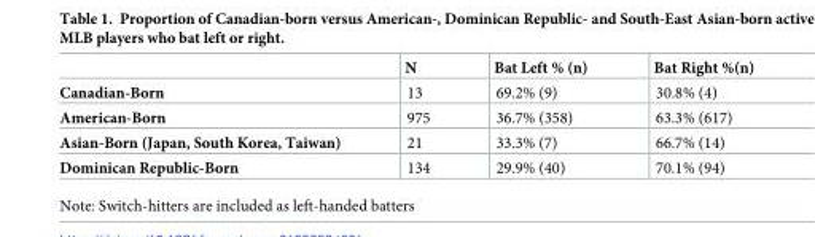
<table><thead><tr><td></td><td>N</td><td>Bat Left % (n)</td><td>Bat Right %(n)</td></tr></thead><tbody><tr><td>Canadian-Born</td><td>13</td><td>69.2% (9)</td><td>30.8% (4)</td></tr><tr><td>American-Born</td><td>975</td><td>36.7% (358)</td><td>63.3% (617)</td></tr><tr><td>Asian-Born (Japan, South Korea, Taiwan)</td><td>21</td><td>33.3% (7)</td><td>66.7% (14)</td></tr><tr><td>Dominican Republic-Born</td><td>134</td><td>29.9% (40)</td><td>70.1% (94)</td></tr></tbody></table>